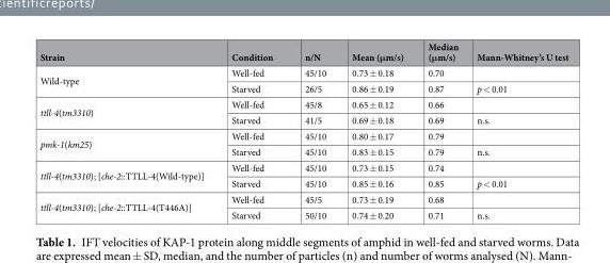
<table><thead><tr><td>Strain</td><td>Condition</td><td>n/N</td><td>Mean (μm/s)</td><td>Median (μm/s)</td><td>Mann-Whitney’s U test</td></tr></thead><tbody><tr><td rowspan="2">Wild-type</td><td>Well-fed</td><td>45/10</td><td>0.73 ± 0.18</td><td>0.70</td><td></td></tr><tr><td>Starved</td><td>26/5</td><td>0.86 ± 0.19</td><td>0.87</td><td>p &lt; 0.01</td></tr><tr><td rowspan="2">ttll-4(tm3310)</td><td>Well-fed</td><td>45/8</td><td>0.65 ± 0.12</td><td>0.66</td><td></td></tr><tr><td>Starved</td><td>41/5</td><td>0.69 ± 0.18</td><td>0.69</td><td>n.s.</td></tr><tr><td rowspan="2">pmk-1(km25)</td><td>Well-fed</td><td>45/10</td><td>0.80 ± 0.17</td><td>0.79</td><td></td></tr><tr><td>Starved</td><td>45/10</td><td>0.83 ± 0.15</td><td>0.79</td><td>n.s.</td></tr><tr><td rowspan="2">ttll-4(tm3310); [che-2::TTLL-4(Wild-type)]</td><td>Well-fed</td><td>45/10</td><td>0.73 ± 0.15</td><td>0.74</td><td></td></tr><tr><td>Starved</td><td>45/10</td><td>0.85 ± 0.16</td><td>0.85</td><td>p &lt; 0.01</td></tr><tr><td rowspan="2">ttll-4(tm3310); [che-2::TTLL-4(T446A)]</td><td>Well-fed</td><td>45/5</td><td>0.73 ± 0.19</td><td>0.68</td><td></td></tr><tr><td>Starved</td><td>50/10</td><td>0.74 ± 0.20</td><td>0.71</td><td>n.s.</td></tr></tbody></table>